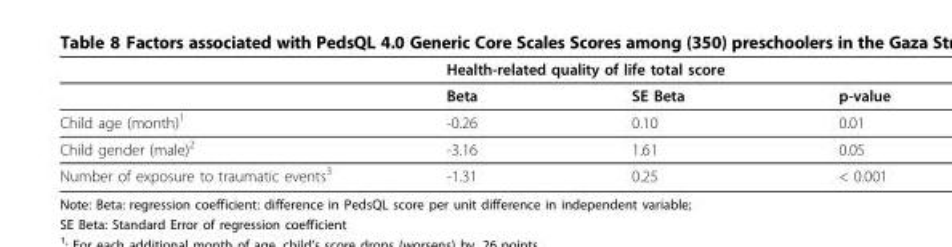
<table><thead><tr><td rowspan="2"></td><td colspan="3">Health-related quality of life total score</td></tr><tr><td>Beta</td><td>SE Beta</td><td>p-value</td></tr></thead><tbody><tr><td>Child age (month)<sup>1</sup></td><td>-0.26</td><td>0.10</td><td>0.01</td></tr><tr><td>Child gender (male)<sup>2</sup></td><td>-3.16</td><td>1.61</td><td>0.05</td></tr><tr><td>Number of exposure to traumatic events<sup>3</sup></td><td>-1.31</td><td>0.25</td><td>&lt; 0.001</td></tr></tbody></table>